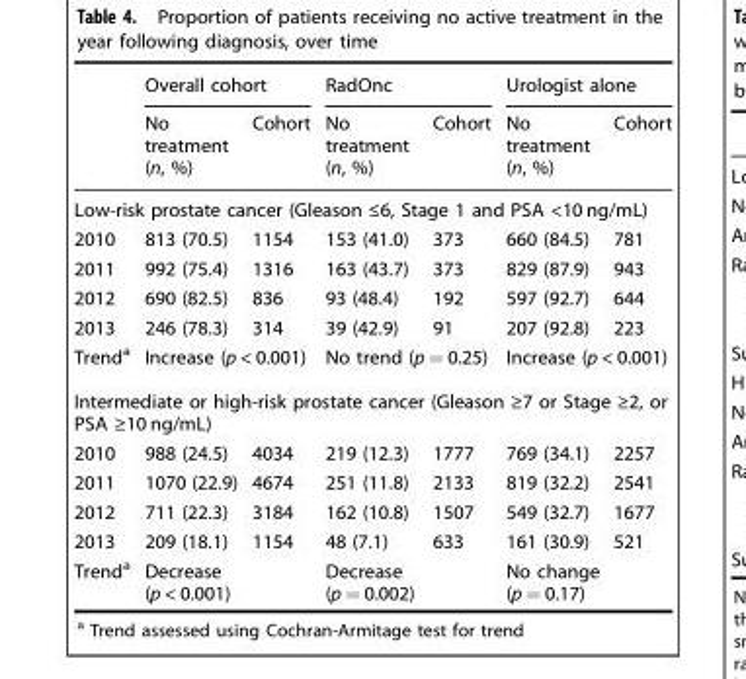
<table><thead><tr><td rowspan="2"></td><td colspan="2">Overall cohort</td><td colspan="2">RadOnc</td><td colspan="2">Urologist alone</td></tr><tr><td>No treatment (n, %)</td><td>Cohort</td><td>No treatment (n, %)</td><td>Cohort</td><td>No treatment (n, %)</td><td>Cohort</td></tr></thead><tbody><tr><td colspan="7">Low-risk prostate cancer (Gleason ≤6, Stage 1 and PSA &lt;10 ng/mL)</td></tr><tr><td>2010</td><td>813 (70.5)</td><td>1154</td><td>153 (41.0)</td><td>373</td><td>660 (84.5)</td><td>781</td></tr><tr><td>2011</td><td>992 (75.4)</td><td>1316</td><td>163 (43.7)</td><td>373</td><td>829 (87.9)</td><td>943</td></tr><tr><td>2012</td><td>690 (82.5)</td><td>836</td><td>93 (48.4)</td><td>192</td><td>597 (92.7)</td><td>644</td></tr><tr><td>2013</td><td>246 (78.3)</td><td>314</td><td>39 (42.9)</td><td>91</td><td>207 (92.8)</td><td>223</td></tr><tr><td>Trend<sup>a</sup></td><td colspan="2">Increase (p &lt; 0.001)</td><td colspan="2">No trend (p = 0.25)</td><td colspan="2">Increase (p &lt; 0.001)</td></tr><tr><td colspan="7">Intermediate or high-risk prostate cancer (Gleason ≥7 or Stage ≥2, or PSA ≥10 ng/mL)</td></tr><tr><td>2010</td><td>988 (24.5)</td><td>4034</td><td>219 (12.3)</td><td>1777</td><td>769 (34.1)</td><td>2257</td></tr><tr><td>2011</td><td>1070 (22.9)</td><td>4674</td><td>251 (11.8)</td><td>2133</td><td>819 (32.2)</td><td>2541</td></tr><tr><td>2012</td><td>711 (22.3)</td><td>3184</td><td>162 (10.8)</td><td>1507</td><td>549 (32.7)</td><td>1677</td></tr><tr><td>2013</td><td>209 (18.1)</td><td>1154</td><td>48 (7.1)</td><td>633</td><td>161 (30.9)</td><td>521</td></tr><tr><td>Trend<sup>a</sup></td><td colspan="2">Decrease (p &lt; 0.001)</td><td colspan="2">Decrease (p = 0.002)</td><td colspan="2">No change (p = 0.17)</td></tr></tbody></table>